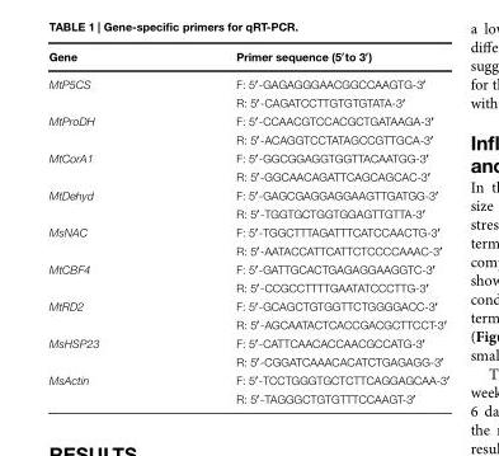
<table><thead><tr><td>Gene</td><td>Primer sequence (5′to 3′)</td></tr></thead><tbody><tr><td rowspan="2">MtP5CS</td><td>F: 5′-GAGAGGGAACGGCCAAGTG-3′</td></tr><tr><td>R: 5′-CAGATCCTTGTGTGTATA-3′</td></tr><tr><td rowspan="2">MtProDH</td><td>F: 5′-CCAACGTCCACGCTGATAAGA-3′</td></tr><tr><td>R: 5′-ACAGGTCCTATAGCCGTTGCA-3′</td></tr><tr><td rowspan="2">MtCorA1</td><td>F: 5′-GGCGGAGGTGGTTACAATGG-3′</td></tr><tr><td>R: 5′-GGCAACAGATTCAGCAGCAC-3′</td></tr><tr><td rowspan="2">MtDehyd</td><td>F: 5′-GAGCGAGGAGGAAGTTGATGG-3′</td></tr><tr><td>R: 5′-TGGTGCTGGTGGAGTTGTTA-3′</td></tr><tr><td rowspan="2">MsNAC</td><td>F: 5′-TGGCTTTAGATTTCATCCAACTG-3′</td></tr><tr><td>R: 5′-AATACCATTCATTCTCCCCAAAC-3′</td></tr><tr><td rowspan="2">MtCBF4</td><td>F: 5′-GATTGCACTGAGAGGAAGGTC-3′</td></tr><tr><td>R: 5′-CCGCCTTTTGAATATCCCTTG-3′</td></tr><tr><td rowspan="2">MtRD2</td><td>F: 5′-GCAGCTGTGGTTCTGGGGACC-3′</td></tr><tr><td>R: 5′-AGCAATACTCACCGACGCTTCCT-3′</td></tr><tr><td rowspan="2">MsHSP23</td><td>F: 5′-CATTCAACACCAACGCCATG-3′</td></tr><tr><td>R: 5′-CGGATCAAACACATCTGAGAGG-3′</td></tr><tr><td rowspan="2">MsActin</td><td>F: 5′-TCCTGGGTGCTCTTCAGGAGCAA-3′</td></tr><tr><td>R: 5′-TAGGGCTGTGTTTCCAAGT-3′</td></tr></tbody></table>